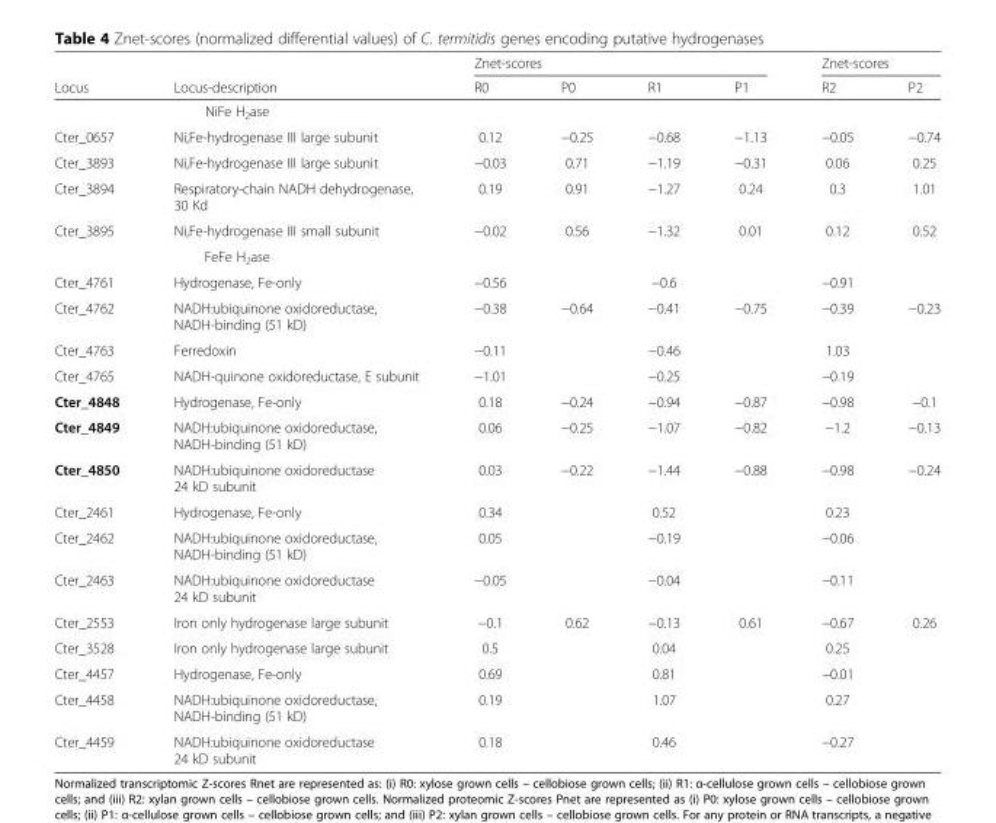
<table><thead><tr><td rowspan="2">Locus</td><td rowspan="2">Locus-description</td><td colspan="4">Znet-scores</td><td colspan="2">Znet-scores</td></tr><tr><td>R0</td><td>P0</td><td>R1</td><td>P1</td><td>R2</td><td>P2</td></tr></thead><tbody><tr><td colspan="8">NiFe H<sub>2</sub>ase</td></tr><tr><td>Cter_0657</td><td>Ni,Fe-hydrogenase III large subunit</td><td>0.12</td><td>−0.25</td><td>−0.68</td><td>−1.13</td><td>−0.05</td><td>−0.74</td></tr><tr><td>Cter_3893</td><td>Ni,Fe-hydrogenase III large subunit</td><td>−0.03</td><td>0.71</td><td>−1.19</td><td>−0.31</td><td>0.06</td><td>0.25</td></tr><tr><td>Cter_3894</td><td>Respiratory-chain NADH dehydrogenase, 30 Kd</td><td>0.19</td><td>0.91</td><td>−1.27</td><td>0.24</td><td>0.3</td><td>1.01</td></tr><tr><td>Cter_3895</td><td>Ni,Fe-hydrogenase III small subunit</td><td>−0.02</td><td>0.56</td><td>−1.32</td><td>0.01</td><td>0.12</td><td>0.52</td></tr><tr><td colspan="8">FeFe H<sub>2</sub>ase</td></tr><tr><td>Cter_4761</td><td>Hydrogenase, Fe-only</td><td>−0.56</td><td></td><td>−0.6</td><td></td><td>−0.91</td><td></td></tr><tr><td>Cter_4762</td><td>NADH:ubiquinone oxidoreductase, NADH-binding (51 kD)</td><td>−0.38</td><td>−0.64</td><td>−0.41</td><td>−0.75</td><td>−0.39</td><td>−0.23</td></tr><tr><td>Cter_4763</td><td>Ferredoxin</td><td>−0.11</td><td></td><td>−0.46</td><td></td><td>1.03</td><td></td></tr><tr><td>Cter_4765</td><td>NADH-quinone oxidoreductase, E subunit</td><td>−1.01</td><td></td><td>−0.25</td><td></td><td>−0.19</td><td></td></tr><tr><td>Cter_4848</td><td>Hydrogenase, Fe-only</td><td>0.18</td><td>−0.24</td><td>−0.94</td><td>−0.87</td><td>−0.98</td><td>−0.1</td></tr><tr><td>Cter_4849</td><td>NADH:ubiquinone oxidoreductase, NADH-binding (51 kD)</td><td>0.06</td><td>−0.25</td><td>−1.07</td><td>−0.82</td><td>−1.2</td><td>−0.13</td></tr><tr><td>Cter_4850</td><td>NADH:ubiquinone oxidoreductase 24 kD subunit</td><td>0.03</td><td>−0.22</td><td>−1.44</td><td>−0.88</td><td>−0.98</td><td>−0.24</td></tr><tr><td>Cter_2461</td><td>Hydrogenase, Fe-only</td><td>0.34</td><td></td><td>0.52</td><td></td><td>0.23</td><td></td></tr><tr><td>Cter_2462</td><td>NADH:ubiquinone oxidoreductase, NADH-binding (51 kD)</td><td>0.05</td><td></td><td>−0.19</td><td></td><td>−0.06</td><td></td></tr><tr><td>Cter_2463</td><td>NADH:ubiquinone oxidoreductase 24 kD subunit</td><td>−0.05</td><td></td><td>−0.04</td><td></td><td>−0.11</td><td></td></tr><tr><td>Cter_2553</td><td>Iron only hydrogenase large subunit</td><td>−0.1</td><td>0.62</td><td>−0.13</td><td>0.61</td><td>−0.67</td><td>0.26</td></tr><tr><td>Cter_3528</td><td>Iron only hydrogenase large subunit</td><td>0.5</td><td></td><td>0.04</td><td></td><td>0.25</td><td></td></tr><tr><td>Cter_4457</td><td>Hydrogenase, Fe-only</td><td>0.69</td><td></td><td>0.81</td><td></td><td>−0.01</td><td></td></tr><tr><td>Cter_4458</td><td>NADH:ubiquinone oxidoreductase, NADH-binding (51 kD)</td><td>0.19</td><td></td><td>1.07</td><td></td><td>0.27</td><td></td></tr><tr><td>Cter_4459</td><td>NADH:ubiquinone oxidoreductase 24 kD subunit</td><td>0.18</td><td></td><td>0.46</td><td></td><td>−0.27</td><td></td></tr></tbody></table>